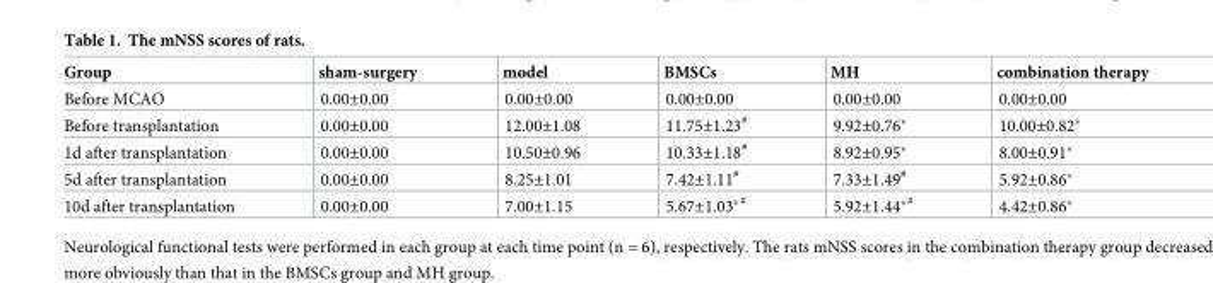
<table><thead><tr><td>Group</td><td>sham-surgery</td><td>model</td><td>BMSCs</td><td>MH</td><td>combination therapy</td></tr></thead><tbody><tr><td>Before MCAO</td><td>0.00±0.00</td><td>0.00±0.00</td><td>0.00±0.00</td><td>0.00±0.00</td><td>0.00±0.00</td></tr><tr><td>Before transplantation</td><td>0.00±0.00</td><td>12.00±1.08</td><td>11.75±1.23<sup>#</sup></td><td>9.92±0.76*</td><td>10.00±0.82*</td></tr><tr><td>1d after transplantation</td><td>0.00±0.00</td><td>10.50±0.96</td><td>10.33±1.18<sup>#</sup></td><td>8.92±0.95*</td><td>8.00±0.91*</td></tr><tr><td>5d after transplantation</td><td>0.00±0.00</td><td>8.25±1.01</td><td>7.42±1.11<sup>#</sup></td><td>7.33±1.49<sup>#</sup></td><td>5.92±0.86*</td></tr><tr><td>10d after transplantation</td><td>0.00±0.00</td><td>7.00±1.15</td><td>5.67±1.03*<sup>#</sup></td><td>5.92±1.44*<sup>#</sup></td><td>4.42±0.86*</td></tr></tbody></table>